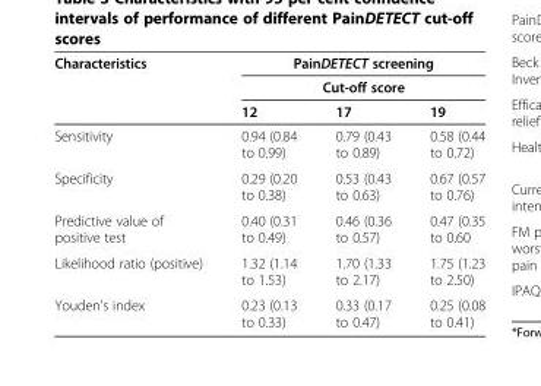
<table><thead><tr><td rowspan="3">Characteristics</td><td rowspan="2" colspan="3">PainDETECT screening Cut-off score</td></tr><tr></tr><tr><td>12</td><td>17</td><td>19</td></tr></thead><tbody><tr><td>Sensitivity</td><td>0.94 (0.84 to 0.99)</td><td>0.79 (0.43 to 0.89)</td><td>0.58 (0.44 to 0.72)</td></tr><tr><td>Specificity</td><td>0.29 (0.20 to 0.38)</td><td>0.53 (0.43 to 0.63)</td><td>0.67 (0.57 to 0.76)</td></tr><tr><td>Predictive value of positive test</td><td>0.40 (0.31 to 0.49)</td><td>0.46 (0.36 to 0.57)</td><td>0.47 (0.35 to 0.60</td></tr><tr><td>Likelihood ratio (positive)</td><td>1.32 (1.14 to 1.53)</td><td>1.70 (1.33 to 2.17)</td><td>1.75 (1.23 to 2.50)</td></tr><tr><td>Youden&#x27;s index</td><td>0.23 (0.13 to 0.33)</td><td>0.33 (0.17 to 0.47)</td><td>0.25 (0.08 to 0.41)</td></tr></tbody></table>